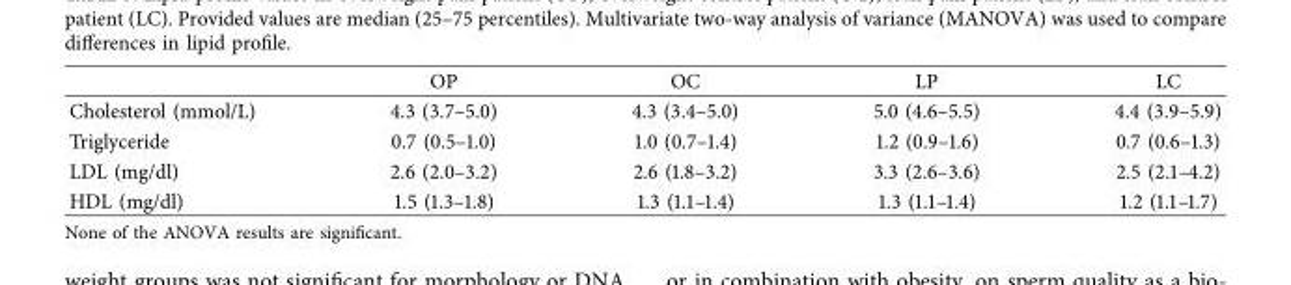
<table><thead><tr><td></td><td>OP</td><td>OC</td><td>LP</td><td>LC</td></tr></thead><tbody><tr><td>Cholesterol (mmol/L)</td><td>4.3 (3.7–5.0)</td><td>4.3 (3.4–5.0)</td><td>5.0 (4.6–5.5)</td><td>4.4 (3.9–5.9)</td></tr><tr><td>Triglyceride</td><td>0.7 (0.5–1.0)</td><td>1.0 (0.7–1.4)</td><td>1.2 (0.9–1.6)</td><td>0.7 (0.6–1.3)</td></tr><tr><td>LDL (mg/dl)</td><td>2.6 (2.0–3.2)</td><td>2.6 (1.8–3.2)</td><td>3.3 (2.6–3.6)</td><td>2.5 (2.1–4.2)</td></tr><tr><td>HDL (mg/dl)</td><td>1.5 (1.3–1.8)</td><td>1.3 (1.1–1.4)</td><td>1.3 (1.1–1.4)</td><td>1.2 (1.1–1.7)</td></tr></tbody></table>